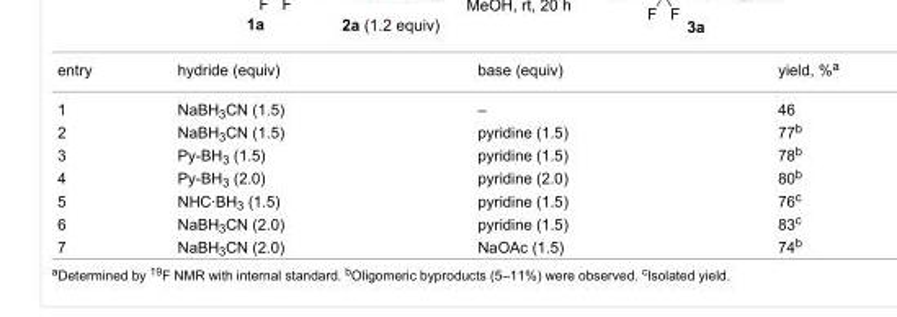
<table><tbody><tr><td>entry</td><td>hydride (equiv)</td><td>base (equiv)</td><td>yield, %<sup>a</sup></td></tr><tr><td>1</td><td>NaBH<sub>3</sub>CN (1.5)</td><td>–</td><td>46</td></tr><tr><td>2</td><td>NaBH<sub>3</sub>CN (1.5)</td><td>pyridine (1.5)</td><td>77<sup>b</sup></td></tr><tr><td>3</td><td>Py-BH<sub>3</sub> (1.5)</td><td>pyridine (1.5)</td><td>78<sup>b</sup></td></tr><tr><td>4</td><td>Py-BH<sub>3</sub> (2.0)</td><td>pyridine (2.0)</td><td>80<sup>b</sup></td></tr><tr><td>5</td><td>NHC·BH<sub>3</sub> (1.5)</td><td>pyridine (1.5)</td><td>76<sup>c</sup></td></tr><tr><td>6</td><td>NaBH<sub>3</sub>CN (2.0)</td><td>pyridine (1.5)</td><td>83<sup>c</sup></td></tr><tr><td>7</td><td>NaBH<sub>3</sub>CN (2.0)</td><td>NaOAc (1.5)</td><td>74<sup>b</sup></td></tr></tbody></table>